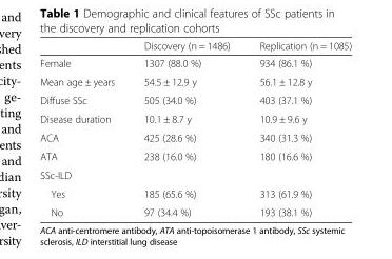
<table><thead><tr><td></td><td>Discovery (n = 1486)</td><td>Replication (n = 1085)</td></tr></thead><tbody><tr><td>Female</td><td>1307 (88.0 %)</td><td>934 (86.1 %)</td></tr><tr><td>Mean age ± years</td><td>54.5 ± 12.9 y</td><td>56.1 ± 12.8 y</td></tr><tr><td>Diffuse SSc</td><td>505 (34.0 %)</td><td>403 (37.1 %)</td></tr><tr><td>Disease duration</td><td>10.1 ± 8.7 y</td><td>10.9 ± 9.6 y</td></tr><tr><td>ACA</td><td>425 (28.6 %)</td><td>340 (31.3 %)</td></tr><tr><td>ATA</td><td>238 (16.0 %)</td><td>180 (16.6 %)</td></tr><tr><td colspan="3">SSc-ILD</td></tr><tr><td>Yes</td><td>185 (65.6 %)</td><td>313 (61.9 %)</td></tr><tr><td>No</td><td>97 (34.4 %)</td><td>193 (38.1 %)</td></tr></tbody></table>